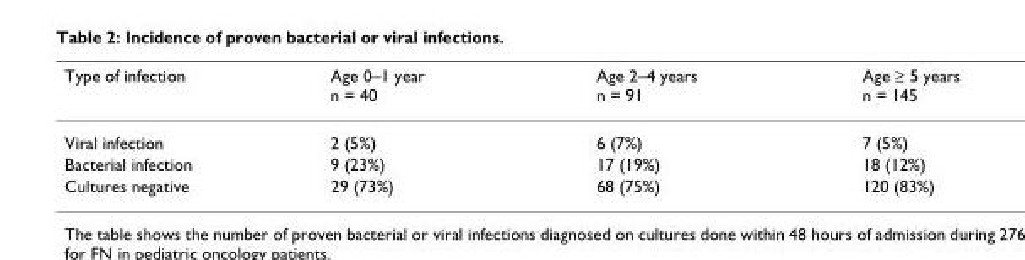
<table><thead><tr><td>Type of infection</td><td>Age 0–1 year n = 40</td><td>Age 2–4 years n = 91</td><td>Age ≥ 5 years n = 145</td></tr></thead><tbody><tr><td>Viral infection</td><td>2 (5%)</td><td>6 (7%)</td><td>7 (5%)</td></tr><tr><td>Bacterial infection</td><td>9 (23%)</td><td>17 (19%)</td><td>18 (12%)</td></tr><tr><td>Cultures negative</td><td>29 (73%)</td><td>68 (75%)</td><td>120 (83%)</td></tr></tbody></table>